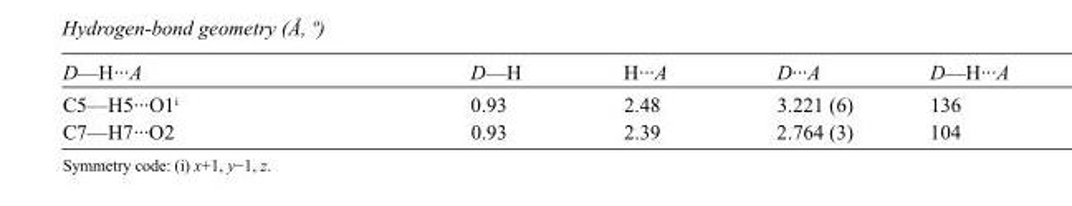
<table><tbody><tr><td>D—H···A</td><td>D—H</td><td>H···A</td><td>D···A</td><td>D—H···A</td></tr><tr><td>C5—H5···O1<sup>i</sup></td><td>0.93</td><td>2.48</td><td>3.221 (6)</td><td>136</td></tr><tr><td>C7—H7···O2</td><td>0.93</td><td>2.39</td><td>2.764 (3)</td><td>104</td></tr></tbody></table>